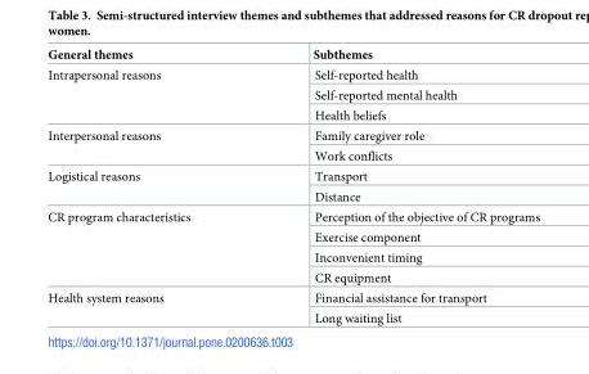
<table><thead><tr><td>General themes</td><td>Subthemes</td></tr></thead><tbody><tr><td rowspan="3">Intrapersonal reasons</td><td>Self-reported health</td></tr><tr><td>Self-reported mental health</td></tr><tr><td>Health beliefs</td></tr><tr><td rowspan="2">Interpersonal reasons</td><td>Family caregiver role</td></tr><tr><td>Work conflicts</td></tr><tr><td rowspan="2">Logistical reasons</td><td>Transport</td></tr><tr><td>Distance</td></tr><tr><td rowspan="4">CR program characteristics</td><td>Perception of the objective of CR programs</td></tr><tr><td>Exercise component</td></tr><tr><td>Inconvenient timing</td></tr><tr><td>CR equipment</td></tr><tr><td rowspan="2">Health system reasons</td><td>Financial assistance for transport</td></tr><tr><td>Long waiting list</td></tr></tbody></table>